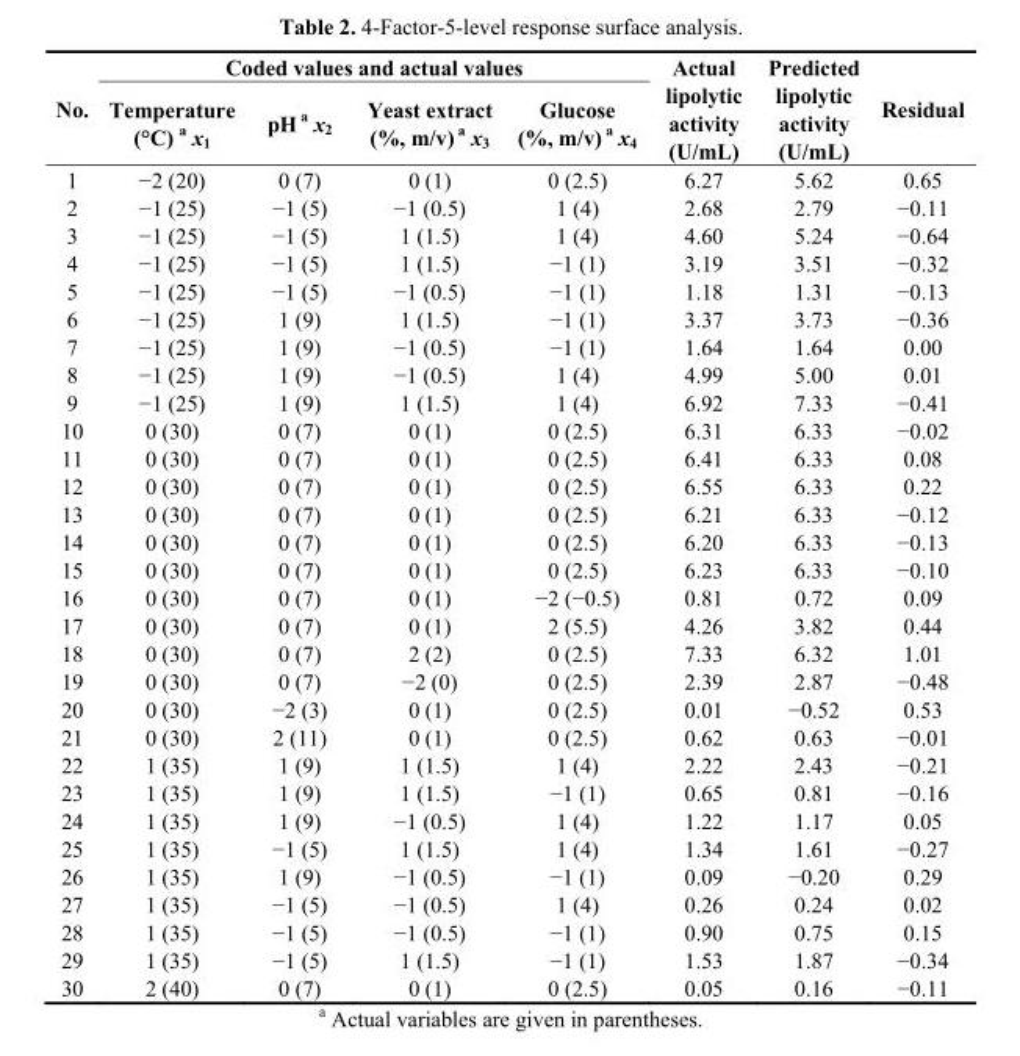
<table><thead><tr><td rowspan="2">No.</td><td colspan="4">Coded values and actual values</td><td rowspan="2">Actual lipolytic activity (U/mL)</td><td rowspan="2">Predicted lipolytic activity (U/mL)</td><td rowspan="2">Residual</td></tr><tr><td>Temperature (°C) a x<sub>1</sub></td><td>pH a x<sub>2</sub></td><td>Yeast extract (%, m/v) a x<sub>3</sub></td><td>Glucose (%, m/v) a x<sub>4</sub></td></tr></thead><tbody><tr><td>1</td><td>−2 (20)</td><td>0 (7)</td><td>0 (1)</td><td>0 (2.5)</td><td>6.27</td><td>5.62</td><td>0.65</td></tr><tr><td>2</td><td>−1 (25)</td><td>−1 (5)</td><td>−1 (0.5)</td><td>1 (4)</td><td>2.68</td><td>2.79</td><td>−0.11</td></tr><tr><td>3</td><td>−1 (25)</td><td>−1 (5)</td><td>1 (1.5)</td><td>1 (4)</td><td>4.60</td><td>5.24</td><td>−0.64</td></tr><tr><td>4</td><td>−1 (25)</td><td>−1 (5)</td><td>1 (1.5)</td><td>−1 (1)</td><td>3.19</td><td>3.51</td><td>−0.32</td></tr><tr><td>5</td><td>−1 (25)</td><td>−1 (5)</td><td>−1 (0.5)</td><td>−1 (1)</td><td>1.18</td><td>1.31</td><td>−0.13</td></tr><tr><td>6</td><td>−1 (25)</td><td>1 (9)</td><td>1 (1.5)</td><td>−1 (1)</td><td>3.37</td><td>3.73</td><td>−0.36</td></tr><tr><td>7</td><td>−1 (25)</td><td>1 (9)</td><td>−1 (0.5)</td><td>−1 (1)</td><td>1.64</td><td>1.64</td><td>0.00</td></tr><tr><td>8</td><td>−1 (25)</td><td>1 (9)</td><td>−1 (0.5)</td><td>1 (4)</td><td>4.99</td><td>5.00</td><td>0.01</td></tr><tr><td>9</td><td>−1 (25)</td><td>1 (9)</td><td>1 (1.5)</td><td>1 (4)</td><td>6.92</td><td>7.33</td><td>−0.41</td></tr><tr><td>10</td><td>0 (30)</td><td>0 (7)</td><td>0 (1)</td><td>0 (2.5)</td><td>6.31</td><td>6.33</td><td>−0.02</td></tr><tr><td>11</td><td>0 (30)</td><td>0 (7)</td><td>0 (1)</td><td>0 (2.5)</td><td>6.41</td><td>6.33</td><td>0.08</td></tr><tr><td>12</td><td>0 (30)</td><td>0 (7)</td><td>0 (1)</td><td>0 (2.5)</td><td>6.55</td><td>6.33</td><td>0.22</td></tr><tr><td>13</td><td>0 (30)</td><td>0 (7)</td><td>0 (1)</td><td>0 (2.5)</td><td>6.21</td><td>6.33</td><td>−0.12</td></tr><tr><td>14</td><td>0 (30)</td><td>0 (7)</td><td>0 (1)</td><td>0 (2.5)</td><td>6.20</td><td>6.33</td><td>−0.13</td></tr><tr><td>15</td><td>0 (30)</td><td>0 (7)</td><td>0 (1)</td><td>0 (2.5)</td><td>6.23</td><td>6.33</td><td>−0.10</td></tr><tr><td>16</td><td>0 (30)</td><td>0 (7)</td><td>0 (1)</td><td>−2 (−0.5)</td><td>0.81</td><td>0.72</td><td>0.09</td></tr><tr><td>17</td><td>0 (30)</td><td>0 (7)</td><td>0 (1)</td><td>2 (5.5)</td><td>4.26</td><td>3.82</td><td>0.44</td></tr><tr><td>18</td><td>0 (30)</td><td>0 (7)</td><td>2 (2)</td><td>0 (2.5)</td><td>7.33</td><td>6.32</td><td>1.01</td></tr><tr><td>19</td><td>0 (30)</td><td>0 (7)</td><td>−2 (0)</td><td>0 (2.5)</td><td>2.39</td><td>2.87</td><td>−0.48</td></tr><tr><td>20</td><td>0 (30)</td><td>−2 (3)</td><td>0 (1)</td><td>0 (2.5)</td><td>0.01</td><td>−0.52</td><td>0.53</td></tr><tr><td>21</td><td>0 (30)</td><td>2 (11)</td><td>0 (1)</td><td>0 (2.5)</td><td>0.62</td><td>0.63</td><td>−0.01</td></tr><tr><td>22</td><td>1 (35)</td><td>1 (9)</td><td>1 (1.5)</td><td>1 (4)</td><td>2.22</td><td>2.43</td><td>−0.21</td></tr><tr><td>23</td><td>1 (35)</td><td>1 (9)</td><td>1 (1.5)</td><td>−1 (1)</td><td>0.65</td><td>0.81</td><td>−0.16</td></tr><tr><td>24</td><td>1 (35)</td><td>1 (9)</td><td>−1 (0.5)</td><td>1 (4)</td><td>1.22</td><td>1.17</td><td>0.05</td></tr><tr><td>25</td><td>1 (35)</td><td>−1 (5)</td><td>1 (1.5)</td><td>1 (4)</td><td>1.34</td><td>1.61</td><td>−0.27</td></tr><tr><td>26</td><td>1 (35)</td><td>1 (9)</td><td>−1 (0.5)</td><td>−1 (1)</td><td>0.09</td><td>−0.20</td><td>0.29</td></tr><tr><td>27</td><td>1 (35)</td><td>−1 (5)</td><td>−1 (0.5)</td><td>1 (4)</td><td>0.26</td><td>0.24</td><td>0.02</td></tr><tr><td>28</td><td>1 (35)</td><td>−1 (5)</td><td>−1 (0.5)</td><td>−1 (1)</td><td>0.90</td><td>0.75</td><td>0.15</td></tr><tr><td>29</td><td>1 (35)</td><td>−1 (5)</td><td>1 (1.5)</td><td>−1 (1)</td><td>1.53</td><td>1.87</td><td>−0.34</td></tr><tr><td>30</td><td>2 (40)</td><td>0 (7)</td><td>0 (1)</td><td>0 (2.5)</td><td>0.05</td><td>0.16</td><td>−0.11</td></tr></tbody></table>